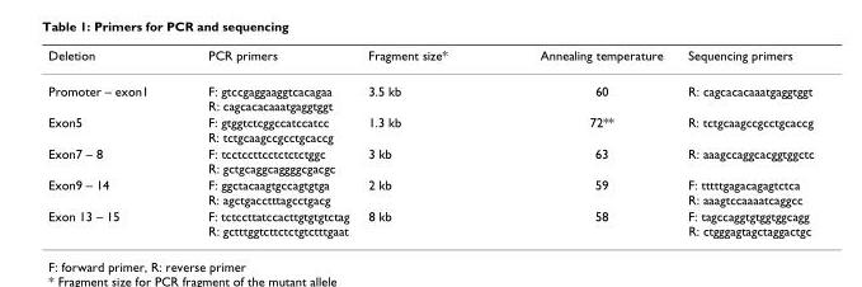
<table><thead><tr><td>Deletion</td><td>PCR primers</td><td>Fragment size*</td><td>Annealing temperature</td><td>Sequencing primers</td></tr></thead><tbody><tr><td>Promoter – exon1</td><td>F: gtccgaggaaggtcacagaa R: cagcacacaaatgaggtggt</td><td>3.5 kb</td><td>60</td><td>R: cagcacacaaatgaggtggt</td></tr><tr><td>Exon5</td><td>F: gtggtctcggccatccatcc R: tctgcaagccgcctgcaccg</td><td>1.3 kb</td><td>72**</td><td>R: tctgcaagccgcctgcaccg</td></tr><tr><td>Exon7 – 8</td><td>F: tcctccttcctctctctggc R: gctgcaggcaggggcgacgc</td><td>3 kb</td><td>63</td><td>R: aaagccaggcacggtggctc</td></tr><tr><td>Exon9 – 14</td><td>F: ggctacaagtgccagtgtga R: agctgacctttagcctgacg</td><td>2 kb</td><td>59</td><td>F: tttttgagacagagtctca R: aaagtccaaaatcaggcc</td></tr><tr><td>Exon 13 – 15</td><td>F: tctccttatccacttgtgtgtctag R: gctttggtcttctctgtctttgaat</td><td>8 kb</td><td>58</td><td>F: tagccaggtgtggtggcagg R: ctgggagtagctaggactgc</td></tr></tbody></table>